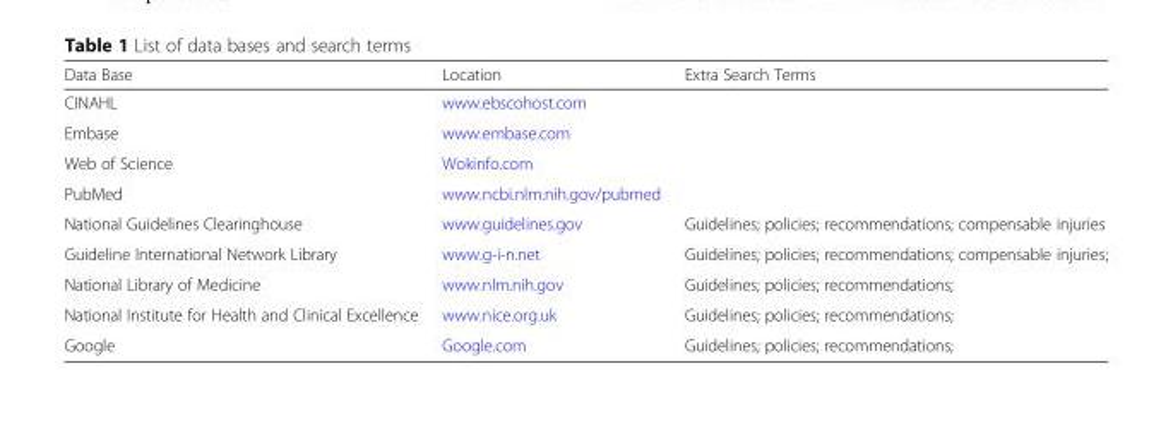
<table><thead><tr><td>Data Base</td><td>Location</td><td>Extra Search Terms</td></tr></thead><tbody><tr><td>CINAHL</td><td>www.ebscohost.com</td><td></td></tr><tr><td>Embase</td><td>www.embase.com</td><td></td></tr><tr><td>Web of Science</td><td>Wokinfo.com</td><td></td></tr><tr><td>PubMed</td><td>www.ncbi.nlm.nih.gov/pubmed</td><td></td></tr><tr><td>National Guidelines Clearinghouse</td><td>www.guidelines.gov</td><td>Guidelines; policies; recommendations; compensable injuries</td></tr><tr><td>Guideline International Network Library</td><td>www.g-i-n.net</td><td>Guidelines; policies; recommendations; compensable injuries;</td></tr><tr><td>National Library of Medicine</td><td>www.nlm.nih.gov</td><td>Guidelines; policies; recommendations;</td></tr><tr><td>National Institute for Health and Clinical Excellence</td><td>www.nice.org.uk</td><td>Guidelines; policies; recommendations;</td></tr><tr><td>Google</td><td>Google.com</td><td>Guidelines; policies; recommendations;</td></tr></tbody></table>